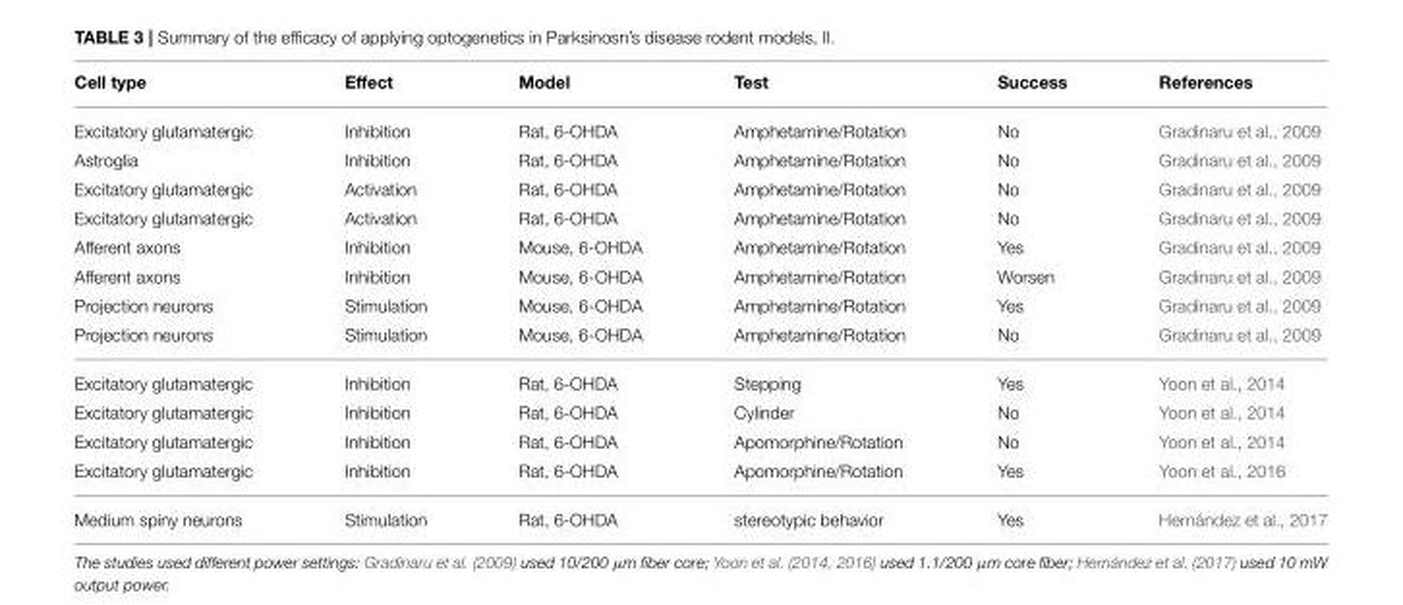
<table><thead><tr><td>Cell type</td><td>Effect</td><td>Model</td><td>Test</td><td>Success</td><td>References</td></tr></thead><tbody><tr><td>Excitatory glutamatergic</td><td>Inhibition</td><td>Rat, 6-OHDA</td><td>Amphetamine/Rotation</td><td>No</td><td>Gradinaru et al., 2009</td></tr><tr><td>Astroglia</td><td>Inhibition</td><td>Rat, 6-OHDA</td><td>Amphetamine/Rotation</td><td>No</td><td>Gradinaru et al., 2009</td></tr><tr><td>Excitatory glutamatergic</td><td>Activation</td><td>Rat, 6-OHDA</td><td>Amphetamine/Rotation</td><td>No</td><td>Gradinaru et al., 2009</td></tr><tr><td>Excitatory glutamatergic</td><td>Activation</td><td>Rat, 6-OHDA</td><td>Amphetamine/Rotation</td><td>No</td><td>Gradinaru et al., 2009</td></tr><tr><td>Afferent axons</td><td>Inhibition</td><td>Mouse, 6-OHDA</td><td>Amphetamine/Rotation</td><td>Yes</td><td>Gradinaru et al., 2009</td></tr><tr><td>Afferent axons</td><td>Inhibition</td><td>Mouse, 6-OHDA</td><td>Amphetamine/Rotation</td><td>Worsen</td><td>Gradinaru et al., 2009</td></tr><tr><td>Projection neurons</td><td>Stimulation</td><td>Mouse, 6-OHDA</td><td>Amphetamine/Rotation</td><td>Yes</td><td>Gradinaru et al., 2009</td></tr><tr><td>Projection neurons</td><td>Stimulation</td><td>Mouse, 6-OHDA</td><td>Amphetamine/Rotation</td><td>No</td><td>Gradinaru et al., 2009</td></tr><tr><td>Excitatory glutamatergic</td><td>Inhibition</td><td>Rat, 6-OHDA</td><td>Stepping</td><td>Yes</td><td>Yoon et al., 2014</td></tr><tr><td>Excitatory glutamatergic</td><td>Inhibition</td><td>Rat, 6-OHDA</td><td>Cylinder</td><td>No</td><td>Yoon et al., 2014</td></tr><tr><td>Excitatory glutamatergic</td><td>Inhibition</td><td>Rat, 6-OHDA</td><td>Apomorphine/Rotation</td><td>No</td><td>Yoon et al., 2014</td></tr><tr><td>Excitatory glutamatergic</td><td>Inhibition</td><td>Rat, 6-OHDA</td><td>Apomorphine/Rotation</td><td>Yes</td><td>Yoon et al., 2016</td></tr><tr><td>Medium spiny neurons</td><td>Stimulation</td><td>Rat, 6-OHDA</td><td>stereotypic behavior</td><td>Yes</td><td>Hernández et al., 2017</td></tr></tbody></table>